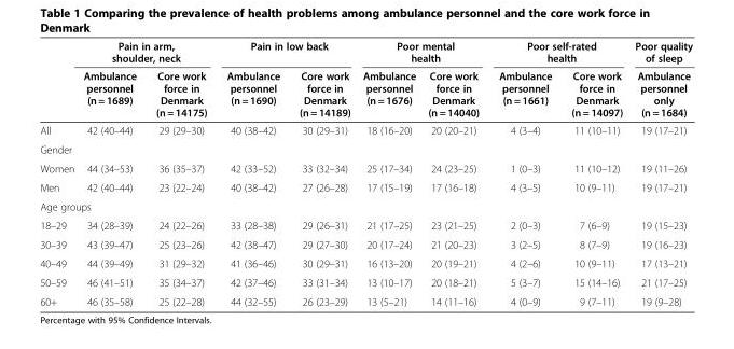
<table><thead><tr><td rowspan="2"></td><td colspan="2">Pain in arm, shoulder, neck</td><td colspan="2">Pain in low back</td><td colspan="2">Poor mental health</td><td colspan="2">Poor self-rated health</td><td rowspan="2">Poor quality of sleep Ambulance personnel only (n = 1684)</td></tr><tr><td>Ambulance personnel (n = 1689)</td><td>Core work force in Denmark (n = 14175)</td><td>Ambulance personnel (n = 1690)</td><td>Core work force in Denmark (n = 14189)</td><td>Ambulance personnel (n = 1676)</td><td>Core work force in Denmark (n = 14040)</td><td>Ambulance personnel (n = 1661)</td><td>Core work force in Denmark (n = 14097)</td></tr></thead><tbody><tr><td>All</td><td>42 (40–44)</td><td>29 (29–30)</td><td>40 (38–42)</td><td>30 (29–31)</td><td>18 (16–20)</td><td>20 (20–21)</td><td>4 (3–4)</td><td>11 (10–11)</td><td>19 (17–21)</td></tr><tr><td colspan="10">Gender</td></tr><tr><td>Women</td><td>44 (34–53)</td><td>36 (35–37)</td><td>42 (33–52)</td><td>33 (32–34)</td><td>25 (17–34)</td><td>24 (23–25)</td><td>1 (0–3)</td><td>11 (10–12)</td><td>19 (11–26)</td></tr><tr><td>Men</td><td>42 (40–44)</td><td>23 (22–24)</td><td>40 (38–42)</td><td>27 (26–28)</td><td>17 (15–19)</td><td>17 (16–18)</td><td>4 (3–5)</td><td>10 (9–11)</td><td>19 (17–21)</td></tr><tr><td colspan="10">Age groups</td></tr><tr><td>18–29</td><td>34 (28–39)</td><td>24 (22–26)</td><td>33 (28–38)</td><td>29 (26–31)</td><td>21 (17–25)</td><td>23 (21–25)</td><td>2 (0–3)</td><td>7 (6–9)</td><td>19 (15–23)</td></tr><tr><td>30–39</td><td>43 (39–47)</td><td>25 (23–26)</td><td>42 (38–47)</td><td>29 (27–30)</td><td>20 (17–24)</td><td>21 (20–23)</td><td>3 (2–5)</td><td>8 (7–9)</td><td>19 (16–23)</td></tr><tr><td>40–49</td><td>44 (39–49)</td><td>31 (29–32)</td><td>41 (36–46)</td><td>30 (29–31)</td><td>16 (13–20)</td><td>20 (19–21)</td><td>4 (2–6)</td><td>10 (9–11)</td><td>17 (13–21)</td></tr><tr><td>50–59</td><td>46 (41–51)</td><td>35 (34–37)</td><td>42 (37–46)</td><td>33 (31–34)</td><td>13 (10–17)</td><td>20 (18–21)</td><td>5 (3–7)</td><td>15 (14–16)</td><td>21 (17–25)</td></tr><tr><td>60+</td><td>46 (35–58)</td><td>25 (22–28)</td><td>44 (32–55)</td><td>26 (23–29)</td><td>13 (5–21)</td><td>14 (11–16)</td><td>4 (0–9)</td><td>9 (7–11)</td><td>19 (9–28)</td></tr></tbody></table>